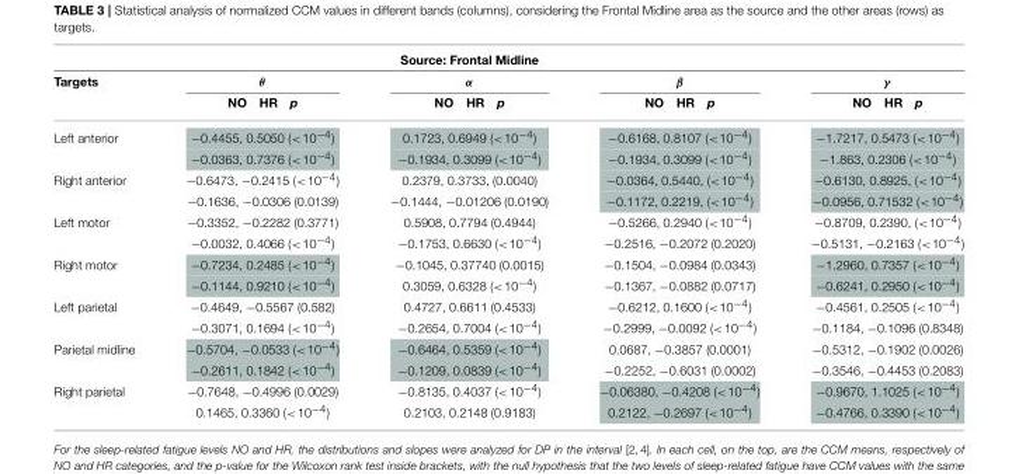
<table><thead><tr><td rowspan="3">Targets</td><td rowspan="3">θ NO HR p</td><td rowspan="3">Source: Frontal Midline α NO HR p</td><td rowspan="3">β NO HR p</td><td rowspan="3">γ NO HR p</td></tr><tr></tr><tr></tr></thead><tbody><tr><td rowspan="2">Left anterior</td><td>−0.4455, 0.5050 (&lt;10<sup>−4</sup>)</td><td>0.1723, 0.6949 (&lt;10<sup>−4</sup>)</td><td>−0.6168, 0.8107 (&lt;10<sup>−4</sup>)</td><td>−1.7217, 0.5473 (&lt;10<sup>−4</sup>)</td></tr><tr><td>−0.0363, 0.7376 (&lt;10<sup>−4</sup>)</td><td>−0.1934, 0.3099 (&lt;10<sup>−4</sup>)</td><td>−0.1934, 0.3099 (&lt;10<sup>−4</sup>)</td><td>−1.863, 0.2306 (&lt;10<sup>−4</sup>)</td></tr><tr><td rowspan="2">Right anterior</td><td>−0.6473, −0.2415 (&lt;10<sup>−4</sup>)</td><td>0.2379, 0.3733, (0.0040)</td><td>−0.0364, 0.5440, (&lt;10<sup>−4</sup>)</td><td>−0.6130, 0.8925, (&lt;10<sup>−4</sup>)</td></tr><tr><td>−0.1636, −0.0306 (0.0139)</td><td>−0.1444, −0.01206 (0.0190)</td><td>−0.1172, 0.2219, (&lt;10<sup>−4</sup>)</td><td>−0.0956, 0.71532 (&lt;10<sup>−4</sup>)</td></tr><tr><td rowspan="2">Left motor</td><td>−0.3352, −0.2282 (0.3771)</td><td>0.5908, 0.7794 (0.4944)</td><td>−0.5266, 0.2940 (&lt;10<sup>−4</sup>)</td><td>−0.8709, 0.2390, (&lt;10<sup>−4</sup>)</td></tr><tr><td>−0.0032, 0.4066 (&lt;10<sup>−4</sup>)</td><td>−0.1753, 0.6630 (&lt;10<sup>−4</sup>)</td><td>−0.2516, −0.2072 (0.2020)</td><td>−0.5131, −0.2163 (&lt;10<sup>−4</sup>)</td></tr><tr><td rowspan="2">Right motor</td><td>−0.7234, 0.2485 (&lt;10<sup>−4</sup>)</td><td>−0.1045, 0.37740 (0.0015)</td><td>−0.1504, −0.0984 (0.0343)</td><td>−1.2960, 0.7357 (&lt;10<sup>−4</sup>)</td></tr><tr><td>−0.1144, 0.9210 (&lt;10<sup>−4</sup>)</td><td>0.3059, 0.6328 (&lt;10<sup>−4</sup>)</td><td>−0.1367, −0.0882 (0.0717)</td><td>−0.6241, 0.2950 (&lt;10<sup>−4</sup>)</td></tr><tr><td rowspan="2">Left parietal</td><td>−0.4649, −0.5567 (0.582)</td><td>0.4727, 0.6611 (0.4533)</td><td>−0.6212, 0.1600 (&lt;10<sup>−4</sup>)</td><td>−0.4561, 0.2505 (&lt;10<sup>−4</sup>)</td></tr><tr><td>−0.3071, 0.1694 (&lt;10<sup>−4</sup>)</td><td>−0.2654, 0.7004 (&lt;10<sup>−4</sup>)</td><td>−0.2999, −0.0092 (&lt;10<sup>−4</sup>)</td><td>−0.1184, −0.1096 (0.8348)</td></tr><tr><td rowspan="2">Parietal midline</td><td>−0.5704, −0.0533 (&lt;10<sup>−4</sup>)</td><td>−0.6464, 0.5359 (&lt;10<sup>−4</sup>)</td><td>0.0687, −0.3857 (0.0001)</td><td>−0.5312, −0.1902 (0.0026)</td></tr><tr><td>−0.2611, 0.1842 (&lt;10<sup>−4</sup>)</td><td>−0.1209, 0.0839 (&lt;10<sup>−4</sup>)</td><td>−0.2252, −0.6031 (0.0002)</td><td>−0.3546, −0.4453 (0.2083)</td></tr><tr><td rowspan="2">Right parietal</td><td>−0.7648, −0.4996 (0.0029)</td><td>−0.8135, 0.4037 (&lt;10<sup>−4</sup>)</td><td>−0.06380, −0.4208 (&lt;10<sup>−4</sup>)</td><td>−0.9670, 1.1025 (&lt;10<sup>−4</sup>)</td></tr><tr><td>0.1465, 0.3360 (&lt;10<sup>−4</sup>)</td><td>0.2103, 0.2148 (0.9183)</td><td>0.2122, −0.2697 (&lt;10<sup>−4</sup>)</td><td>−0.4766, 0.3390 (&lt;10<sup>−4</sup>)</td></tr></tbody></table>